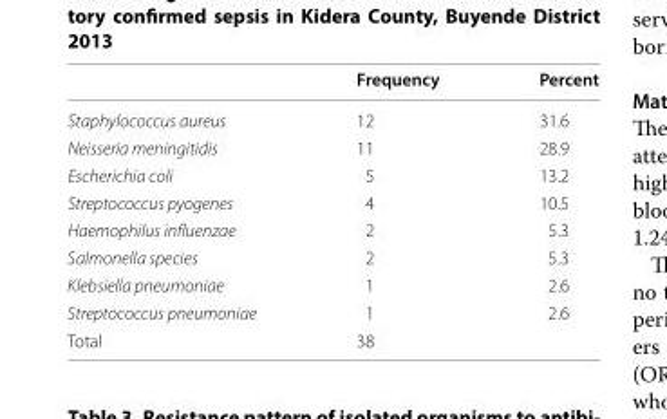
<table><thead><tr><td></td><td>Frequency</td><td>Percent</td></tr></thead><tbody><tr><td>Staphylococcus aureus</td><td>12</td><td>31.6</td></tr><tr><td>Neisseria meningitidis</td><td>11</td><td>28.9</td></tr><tr><td>Escherichia coli</td><td>5</td><td>13.2</td></tr><tr><td>Streptococcus pyogenes</td><td>4</td><td>10.5</td></tr><tr><td>Haemophilus influenzae</td><td>2</td><td>5.3</td></tr><tr><td>Salmonella species</td><td>2</td><td>5.3</td></tr><tr><td>Klebsiella pneumoniae</td><td>1</td><td>2.6</td></tr><tr><td>Streptococcus pneumoniae</td><td>1</td><td>2.6</td></tr><tr><td>Total</td><td>38</td><td></td></tr></tbody></table>